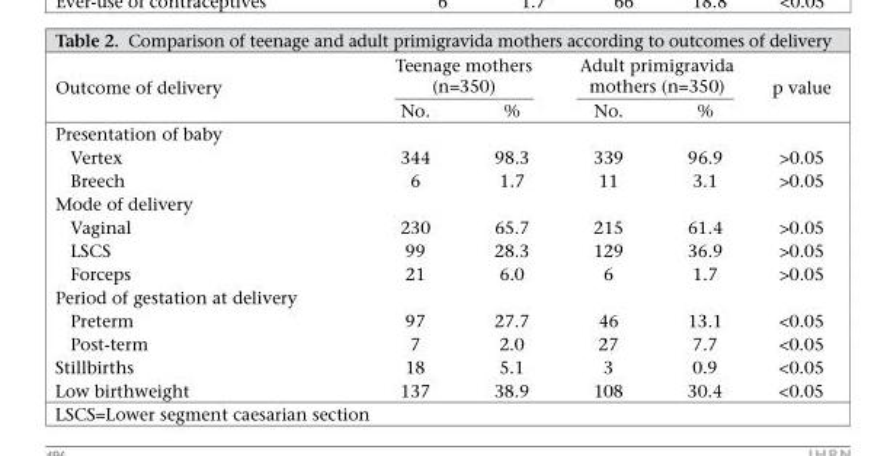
<table><thead><tr><td rowspan="2">Outcome of delivery</td><td colspan="2">Teenage mothers (n=350)</td><td colspan="2">Adult primigravida mothers (n=350)</td><td rowspan="2">p value</td></tr><tr><td>No.</td><td>%</td><td>No.</td><td>%</td></tr></thead><tbody><tr><td colspan="6">Presentation of baby</td></tr><tr><td>Vertex</td><td>344</td><td>98.3</td><td>339</td><td>96.9</td><td>&gt;0.05</td></tr><tr><td>Breech</td><td>6</td><td>1.7</td><td>11</td><td>3.1</td><td>&gt;0.05</td></tr><tr><td colspan="6">Mode of delivery</td></tr><tr><td>Vaginal</td><td>230</td><td>65.7</td><td>215</td><td>61.4</td><td>&gt;0.05</td></tr><tr><td>LSCS</td><td>99</td><td>28.3</td><td>129</td><td>36.9</td><td>&gt;0.05</td></tr><tr><td>Forceps</td><td>21</td><td>6.0</td><td>6</td><td>1.7</td><td>&gt;0.05</td></tr><tr><td colspan="6">Period of gestation at delivery</td></tr><tr><td>Preterm</td><td>97</td><td>27.7</td><td>46</td><td>13.1</td><td>&lt;0.05</td></tr><tr><td>Post-term</td><td>7</td><td>2.0</td><td>27</td><td>7.7</td><td>&lt;0.05</td></tr><tr><td>Stillbirths</td><td>18</td><td>5.1</td><td>3</td><td>0.9</td><td>&lt;0.05</td></tr><tr><td>Low birthweight</td><td>137</td><td>38.9</td><td>108</td><td>30.4</td><td>&lt;0.05</td></tr></tbody></table>